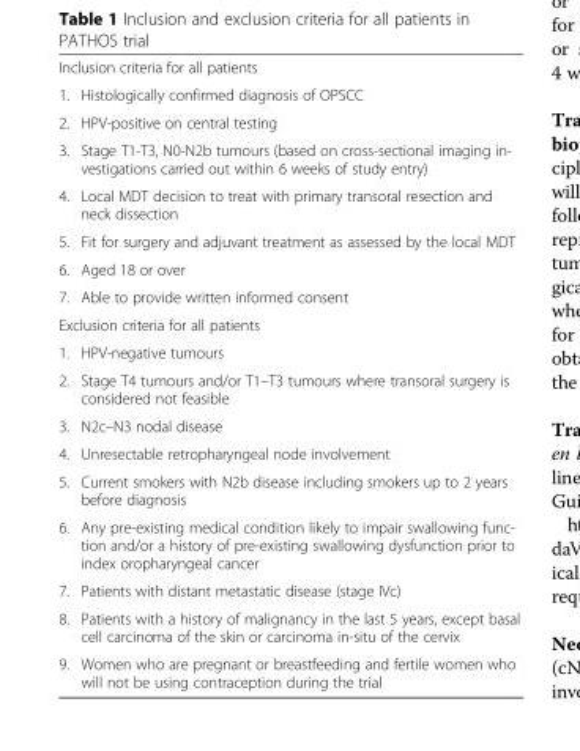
<table><tbody><tr><td colspan="2">Inclusion criteria for all patients</td></tr><tr><td>1.</td><td>Histologically confirmed diagnosis of OPSCC</td></tr><tr><td>2.</td><td>HPV-positive on central testing</td></tr><tr><td>3.</td><td>Stage T1-T3, N0-N2b tumours (based on cross-sectional imaging in- vestigations carried out within 6 weeks of study entry)</td></tr><tr><td>4.</td><td>Local MDT decision to treat with primary transoral resection and neck dissection</td></tr><tr><td>5.</td><td>Fit for surgery and adjuvant treatment as assessed by the local MDT</td></tr><tr><td>6.</td><td>Aged 18 or over</td></tr><tr><td>7.</td><td>Able to provide written informed consent</td></tr><tr><td colspan="2">Exclusion criteria for all patients</td></tr><tr><td>1.</td><td>HPV-negative tumours</td></tr><tr><td>2.</td><td>Stage T4 tumours and/or T1–T3 tumours where transoral surgery is considered not feasible</td></tr><tr><td>3.</td><td>N2c–N3 nodal disease</td></tr><tr><td>4.</td><td>Unresectable retropharyngeal node involvement</td></tr><tr><td>5.</td><td>Current smokers with N2b disease including smokers up to 2 years before diagnosis</td></tr><tr><td>6.</td><td>Any pre-existing medical condition likely to impair swallowing func- tion and/or a history of pre-existing swallowing dysfunction prior to index oropharyngeal cancer</td></tr><tr><td>7.</td><td>Patients with distant metastatic disease (stage IVc)</td></tr><tr><td>8.</td><td>Patients with a history of malignancy in the last 5 years, except basal cell carcinoma of the skin or carcinoma in-situ of the cervix</td></tr><tr><td>9.</td><td>Women who are pregnant or breastfeeding and fertile women who will not be using contraception during the trial</td></tr></tbody></table>